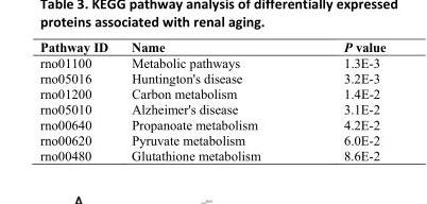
<table><tbody><tr><td>Pathway ID</td><td>Name</td><td>P value</td></tr><tr><td>rno01100</td><td>Metabolic pathways</td><td>1.3E-3</td></tr><tr><td>rno05016</td><td>Huntington&#x27;s disease</td><td>3.2E-3</td></tr><tr><td>rno01200</td><td>Carbon metabolism</td><td>1.4E-2</td></tr><tr><td>rno05010</td><td>Alzheimer&#x27;s disease</td><td>3.1E-2</td></tr><tr><td>rno00640</td><td>Propanoate metabolism</td><td>4.2E-2</td></tr><tr><td>rno00620</td><td>Pyruvate metabolism</td><td>6.0E-2</td></tr><tr><td>rno00480</td><td>Glutathione metabolism</td><td>8.6E-2</td></tr></tbody></table>